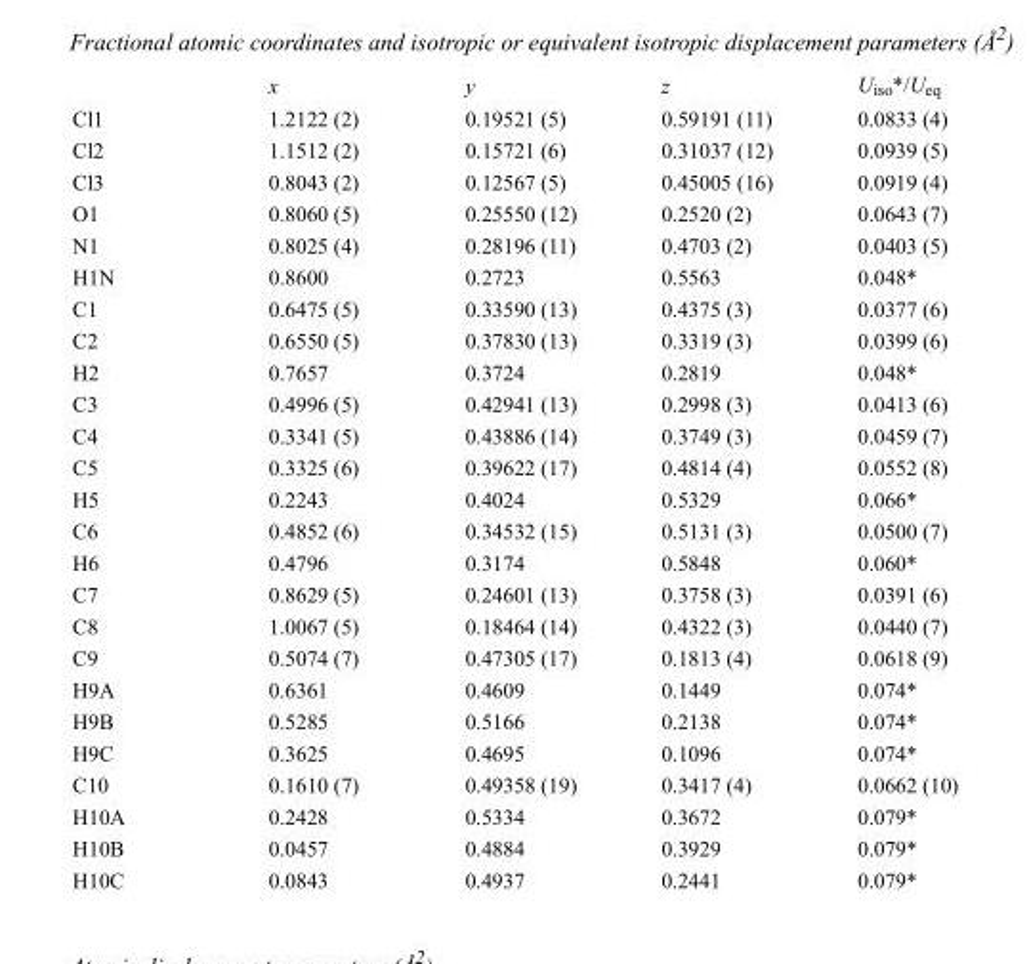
<table><thead><tr><td></td><td>x</td><td>y</td><td>z</td><td>U<sub>iso</sub>*/U<sub>eq</sub></td></tr></thead><tbody><tr><td>Cl1</td><td>1.2122 (2)</td><td>0.19521 (5)</td><td>0.59191 (11)</td><td>0.0833 (4)</td></tr><tr><td>Cl2</td><td>1.1512 (2)</td><td>0.15721 (6)</td><td>0.31037 (12)</td><td>0.0939 (5)</td></tr><tr><td>Cl3</td><td>0.8043 (2)</td><td>0.12567 (5)</td><td>0.45005 (16)</td><td>0.0919 (4)</td></tr><tr><td>O1</td><td>0.8060 (5)</td><td>0.25550 (12)</td><td>0.2520 (2)</td><td>0.0643 (7)</td></tr><tr><td>N1</td><td>0.8025 (4)</td><td>0.28196 (11)</td><td>0.4703 (2)</td><td>0.0403 (5)</td></tr><tr><td>H1N</td><td>0.8600</td><td>0.2723</td><td>0.5563</td><td>0.048*</td></tr><tr><td>C1</td><td>0.6475 (5)</td><td>0.33590 (13)</td><td>0.4375 (3)</td><td>0.0377 (6)</td></tr><tr><td>C2</td><td>0.6550 (5)</td><td>0.37830 (13)</td><td>0.3319 (3)</td><td>0.0399 (6)</td></tr><tr><td>H2</td><td>0.7657</td><td>0.3724</td><td>0.2819</td><td>0.048*</td></tr><tr><td>C3</td><td>0.4996 (5)</td><td>0.42941 (13)</td><td>0.2998 (3)</td><td>0.0413 (6)</td></tr><tr><td>C4</td><td>0.3341 (5)</td><td>0.43886 (14)</td><td>0.3749 (3)</td><td>0.0459 (7)</td></tr><tr><td>C5</td><td>0.3325 (6)</td><td>0.39622 (17)</td><td>0.4814 (4)</td><td>0.0552 (8)</td></tr><tr><td>H5</td><td>0.2243</td><td>0.4024</td><td>0.5329</td><td>0.066*</td></tr><tr><td>C6</td><td>0.4852 (6)</td><td>0.34532 (15)</td><td>0.5131 (3)</td><td>0.0500 (7)</td></tr><tr><td>H6</td><td>0.4796</td><td>0.3174</td><td>0.5848</td><td>0.060*</td></tr><tr><td>C7</td><td>0.8629 (5)</td><td>0.24601 (13)</td><td>0.3758 (3)</td><td>0.0391 (6)</td></tr><tr><td>C8</td><td>1.0067 (5)</td><td>0.18464 (14)</td><td>0.4322 (3)</td><td>0.0440 (7)</td></tr><tr><td>C9</td><td>0.5074 (7)</td><td>0.47305 (17)</td><td>0.1813 (4)</td><td>0.0618 (9)</td></tr><tr><td>H9A</td><td>0.6361</td><td>0.4609</td><td>0.1449</td><td>0.074*</td></tr><tr><td>H9B</td><td>0.5285</td><td>0.5166</td><td>0.2138</td><td>0.074*</td></tr><tr><td>H9C</td><td>0.3625</td><td>0.4695</td><td>0.1096</td><td>0.074*</td></tr><tr><td>C10</td><td>0.1610 (7)</td><td>0.49358 (19)</td><td>0.3417 (4)</td><td>0.0662 (10)</td></tr><tr><td>H10A</td><td>0.2428</td><td>0.5334</td><td>0.3672</td><td>0.079*</td></tr><tr><td>H10B</td><td>0.0457</td><td>0.4884</td><td>0.3929</td><td>0.079*</td></tr><tr><td>H10C</td><td>0.0843</td><td>0.4937</td><td>0.2441</td><td>0.079*</td></tr></tbody></table>